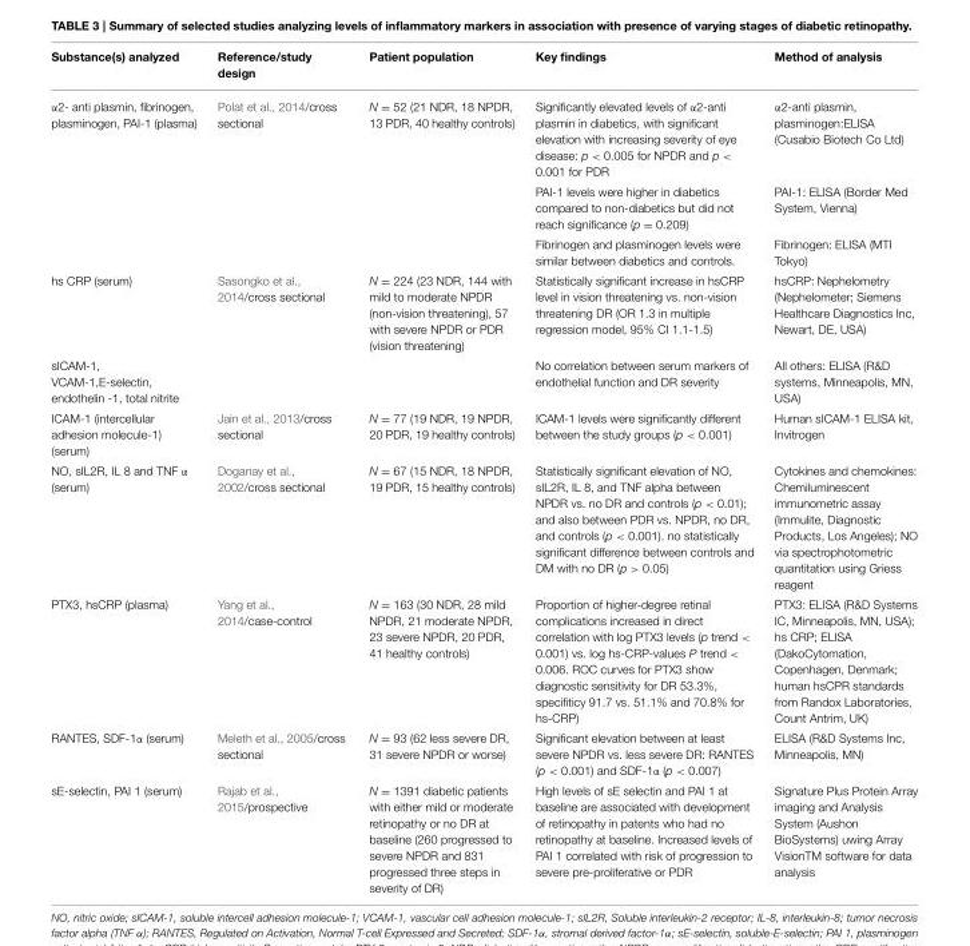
<table><thead><tr><td>Substance(s) analyzed</td><td>Reference/study design</td><td>Patient population</td><td>Key findings</td><td>Method of analysis</td></tr></thead><tbody><tr><td rowspan="3">α2- anti plasmin, fibrinogen, plasminogen, PAI-1 (plasma)</td><td>Polat et al., 2014/cross sectional</td><td>N = 52 (21 NDR, 18 NPDR, 13 PDR, 40 healthy controls)</td><td>Significantly elevated levels of α2-anti plasmin in diabetics, with significant elevation with increasing severity of eye disease: p &lt; 0.005 for NPDR and p &lt; 0.001 for PDR</td><td>α2-anti plasmin, plasminogen:ELISA (Cusabio Biotech Co Ltd)</td></tr><tr><td></td><td></td><td>PAI-1 levels were higher in diabetics compared to non-diabetics but did not reach significance (p = 0.209)</td><td>PAI-1: ELISA (Border Med System, Vienna)</td></tr><tr><td></td><td></td><td>Fibrinogen and plasminogen levels were similar between diabetics and controls.</td><td>Fibrinogen: ELISA (MTI Tokyo)</td></tr><tr><td>hs CRP (serum)</td><td>Sasongko et al., 2014/cross sectional</td><td>N = 224 (23 NDR, 144 with mild to moderate NPDR (non-vision threatening), 57 with severe NPDR or PDR (vision threatening)</td><td>Statistically significant increase in hsCRP level in vision threatening vs. non-vision threatening DR (OR 1.3 in multiple regression model, 95% CI 1.1-1.5)</td><td>hsCRP: Nephelometry (Nephelometer; Siemens Healthcare Diagnostics Inc, Newart, DE, USA)</td></tr><tr><td>sICAM-1, VCAM-1,E-selectin, endothelin -1, total nitrite</td><td></td><td></td><td>No correlation between serum markers of endothelial function and DR severity</td><td>All others: ELISA (R&amp;D systems, Minneapolis, MN, USA)</td></tr><tr><td>ICAM-1 (intercellular adhesion molecule-1) (serum)</td><td>Jain et al., 2013/cross sectional</td><td>N = 77 (19 NDR, 19 NPDR, 20 PDR, 19 healthy controls)</td><td>ICAM-1 levels were significantly different between the study groups (p &lt; 0.001)</td><td>Human sICAM-1 ELISA kit, Invitrogen</td></tr><tr><td>NO, sIL2R, IL 8 and TNF α (serum)</td><td>Doganay et al., 2002/cross sectional</td><td>N = 67 (15 NDR, 18 NPDR, 19 PDR, 15 healthy controls)</td><td>Statistically significant elevation of NO, sIL2R, IL 8, and TNF alpha between NPDR vs. no DR and controls (p &lt; 0.01); and also between PDR vs. NPDR, no DR, and controls (p &lt; 0.001). no statistically significant difference between controls and DM with no DR (p &gt; 0.05)</td><td>Cytokines and chemokines: Chemiluminescent immunometric assay (Immulite, Diagnostic Products, Los Angeles); NO via spectrophotometric quantitation using Griess reagent</td></tr><tr><td>PTX3, hsCRP (plasma)</td><td>Yang et al., 2014/case-control</td><td>N = 163 (30 NDR, 28 mild NPDR, 21 moderate NPDR, 23 severe NPDR, 20 PDR, 41 healthy controls)</td><td>Proportion of higher-degree retinal complications increased in direct correlation with log PTX3 levels (p trend &lt; 0.001) vs. log hs-CRP-values P trend &lt; 0.006. ROC curves for PTX3 show diagnostic sensitivity for DR 53.3%, specifiticy 91.7 vs. 51.1% and 70.8% for hs-CRP)</td><td>PTX3: ELISA (R&amp;D Systems IC, Minneapolis, MN, USA); hs CRP; ELISA (DakoCytomation, Copenhagen, Denmark; human hsCPR standards from Randox Laboratories, Count Antrim, UK)</td></tr><tr><td>RANTES, SDF-1α (serum)</td><td>Meleth et al., 2005/cross sectional</td><td>N = 93 (62 less severe DR, 31 severe NPDR or worse)</td><td>Significant elevation between at least severe NPDR vs. less severe DR: RANTES (p &lt; 0.001) and SDF-1α (p &lt; 0.007)</td><td>ELISA (R&amp;D Systems Inc, Minneapolis, MN)</td></tr><tr><td>sE-selectin, PAI 1 (serum)</td><td>Rajab et al., 2015/prospective</td><td>N = 1391 diabetic patients with either mild or moderate retinopathy or no DR at baseline (260 progressed to severe NPDR and 831 progressed three steps in severity of DR)</td><td>High levels of sE selectin and PAI 1 at baseline are associated with development of retinopathy in patents who had no retinopathy at baseline. Increased levels of PAI 1 correlated with risk of progression to severe pre-proliferative or PDR</td><td>Signature Plus Protein Array imaging and Analysis System (Aushon BioSystems) uwing Array VisionTM software for data analysis</td></tr></tbody></table>